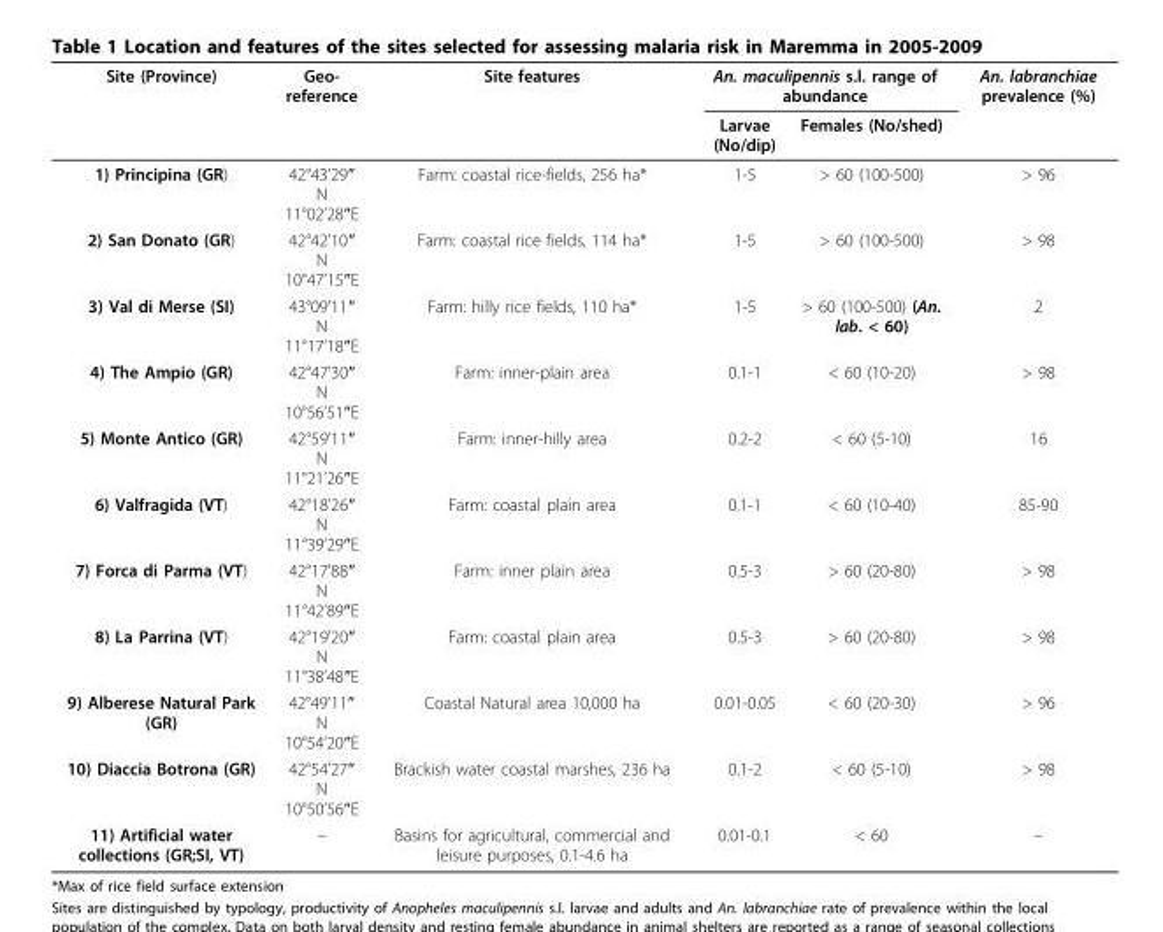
<table><thead><tr><td rowspan="2">Site (Province)</td><td rowspan="2">Geo- reference</td><td rowspan="2">Site features</td><td colspan="2">An. maculipennis s.l. range of abundance</td><td rowspan="2">An. labranchiae prevalence (%)</td></tr><tr><td>Larvae (No/dip)</td><td>Females (No/shed)</td></tr></thead><tbody><tr><td>1) Principina (GR)</td><td>42°43’29″ N 11°02’28″E</td><td>Farm: coastal rice-fields, 256 ha*</td><td>1-5</td><td>&gt; 60 (100-500)</td><td>&gt; 96</td></tr><tr><td>2) San Donato (GR)</td><td>42°42’10″ N 10°47’15″E</td><td>Farm: coastal rice fields, 114 ha*</td><td>1-5</td><td>&gt; 60 (100-500)</td><td>&gt; 98</td></tr><tr><td>3) Val di Merse (SI)</td><td>43°09’11″ N 11°17’18″E</td><td>Farm: hilly rice fields, 110 ha*</td><td>1-5</td><td>&gt; 60 (100-500) (An. lab. &lt; 60)</td><td>2</td></tr><tr><td>4) The Ampio (GR)</td><td>42°47’30″ N 10°56’51″E</td><td>Farm: inner-plain area</td><td>0.1-1</td><td>&lt; 60 (10-20)</td><td>&gt; 98</td></tr><tr><td>5) Monte Antico (GR)</td><td>42°59’11″ N 11°21’26″E</td><td>Farm: inner-hilly area</td><td>0.2-2</td><td>&lt; 60 (5-10)</td><td>16</td></tr><tr><td>6) Valfragida (VT)</td><td>42°18’26″ N 11°39’29″E</td><td>Farm: coastal plain area</td><td>0.1-1</td><td>&lt; 60 (10-40)</td><td>85-90</td></tr><tr><td>7) Forca di Parma (VT)</td><td>42°17’88″ N 11°42’89″E</td><td>Farm: inner plain area</td><td>0.5-3</td><td>&gt; 60 (20-80)</td><td>&gt; 98</td></tr><tr><td>8) La Parrina (VT)</td><td>42°19’20″ N 11°38’48″E</td><td>Farm: coastal plain area</td><td>0.5-3</td><td>&gt; 60 (20-80)</td><td>&gt; 98</td></tr><tr><td>9) Alberese Natural Park (GR)</td><td>42°49’11″ N 10°54’20″E</td><td>Coastal Natural area 10,000 ha</td><td>0.01-0.05</td><td>&lt; 60 (20-30)</td><td>&gt; 96</td></tr><tr><td>10) Diaccia Botrona (GR)</td><td>42°54’27″ N 10°50’56″E</td><td>Brackish water coastal marshes, 236 ha</td><td>0.1-2</td><td>&lt; 60 (5-10)</td><td>&gt; 98</td></tr><tr><td>11) Artificial water collections (GR;SI, VT)</td><td>–</td><td>Basins for agricultural, commercial and leisure purposes, 0.1-4.6 ha</td><td>0.01-0.1</td><td>&lt; 60</td><td>–</td></tr></tbody></table>